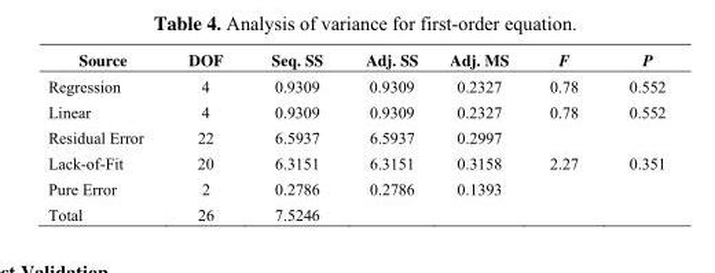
<table><thead><tr><td>Source</td><td>DOF</td><td>Seq. SS</td><td>Adj. SS</td><td>Adj. MS</td><td>F</td><td>P</td></tr></thead><tbody><tr><td>Regression</td><td>4</td><td>0.9309</td><td>0.9309</td><td>0.2327</td><td>0.78</td><td>0.552</td></tr><tr><td>Linear</td><td>4</td><td>0.9309</td><td>0.9309</td><td>0.2327</td><td>0.78</td><td>0.552</td></tr><tr><td>Residual Error</td><td>22</td><td>6.5937</td><td>6.5937</td><td>0.2997</td><td></td><td></td></tr><tr><td>Lack-of-Fit</td><td>20</td><td>6.3151</td><td>6.3151</td><td>0.3158</td><td>2.27</td><td>0.351</td></tr><tr><td>Pure Error</td><td>2</td><td>0.2786</td><td>0.2786</td><td>0.1393</td><td></td><td></td></tr><tr><td>Total</td><td>26</td><td>7.5246</td><td></td><td></td><td></td><td></td></tr></tbody></table>